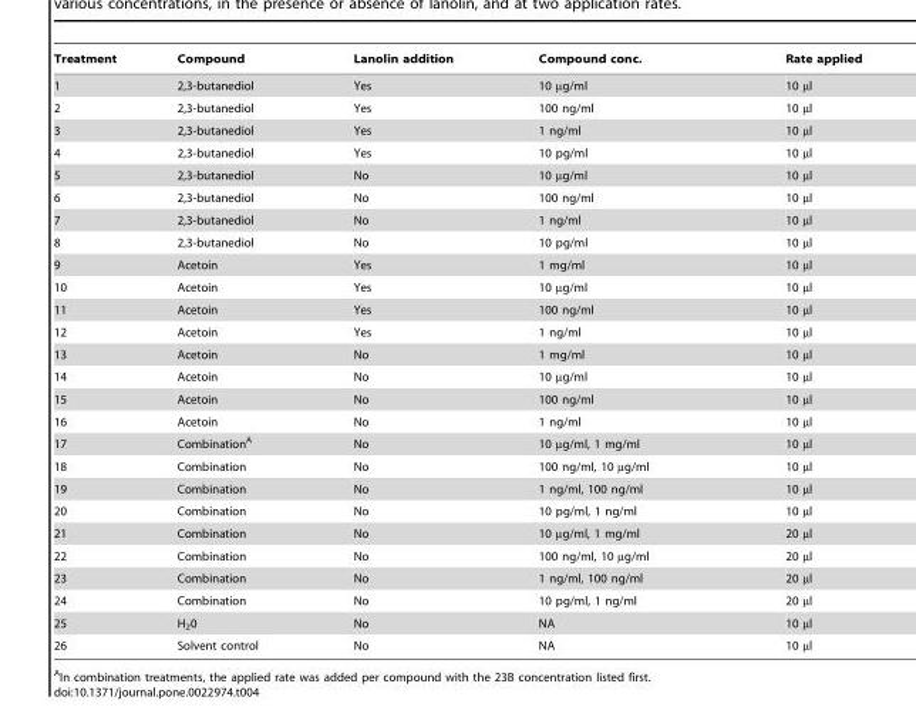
<table><thead><tr><td>Treatment</td><td>Compound</td><td>Lanolin addition</td><td>Compound conc.</td><td>Rate applied</td></tr></thead><tbody><tr><td>1</td><td>2,3-butanediol</td><td>Yes</td><td>10 µg/ml</td><td>10 µl</td></tr><tr><td>2</td><td>2,3-butanediol</td><td>Yes</td><td>100 ng/ml</td><td>10 µl</td></tr><tr><td>3</td><td>2,3-butanediol</td><td>Yes</td><td>1 ng/ml</td><td>10 µl</td></tr><tr><td>4</td><td>2,3-butanediol</td><td>Yes</td><td>10 pg/ml</td><td>10 µl</td></tr><tr><td>5</td><td>2,3-butanediol</td><td>No</td><td>10 µg/ml</td><td>10 µl</td></tr><tr><td>6</td><td>2,3-butanediol</td><td>No</td><td>100 ng/ml</td><td>10 µl</td></tr><tr><td>7</td><td>2,3-butanediol</td><td>No</td><td>1 ng/ml</td><td>10 µl</td></tr><tr><td>8</td><td>2,3-butanediol</td><td>No</td><td>10 pg/ml</td><td>10 µl</td></tr><tr><td>9</td><td>Acetoin</td><td>Yes</td><td>1 mg/ml</td><td>10 µl</td></tr><tr><td>10</td><td>Acetoin</td><td>Yes</td><td>10 µg/ml</td><td>10 µl</td></tr><tr><td>11</td><td>Acetoin</td><td>Yes</td><td>100 ng/ml</td><td>10 µl</td></tr><tr><td>12</td><td>Acetoin</td><td>Yes</td><td>1 ng/ml</td><td>10 µl</td></tr><tr><td>13</td><td>Acetoin</td><td>No</td><td>1 mg/ml</td><td>10 µl</td></tr><tr><td>14</td><td>Acetoin</td><td>No</td><td>10 µg/ml</td><td>10 µl</td></tr><tr><td>15</td><td>Acetoin</td><td>No</td><td>100 ng/ml</td><td>10 µl</td></tr><tr><td>16</td><td>Acetoin</td><td>No</td><td>1 ng/ml</td><td>10 µl</td></tr><tr><td>17</td><td>Combination<sup>A</sup></td><td>No</td><td>10 µg/ml, 1 mg/ml</td><td>10 µl</td></tr><tr><td>18</td><td>Combination</td><td>No</td><td>100 ng/ml, 10 µg/ml</td><td>10 µl</td></tr><tr><td>19</td><td>Combination</td><td>No</td><td>1 ng/ml, 100 ng/ml</td><td>10 µl</td></tr><tr><td>20</td><td>Combination</td><td>No</td><td>10 pg/ml, 1 ng/ml</td><td>10 µl</td></tr><tr><td>21</td><td>Combination</td><td>No</td><td>10 µg/ml, 1 mg/ml</td><td>20 µl</td></tr><tr><td>22</td><td>Combination</td><td>No</td><td>100 ng/ml, 10 µg/ml</td><td>20 µl</td></tr><tr><td>23</td><td>Combination</td><td>No</td><td>1 ng/ml, 100 ng/ml</td><td>20 µl</td></tr><tr><td>24</td><td>Combination</td><td>No</td><td>10 pg/ml, 1 ng/ml</td><td>20 µl</td></tr><tr><td>25</td><td>H<sub>2</sub>0</td><td>No</td><td>NA</td><td>10 µl</td></tr><tr><td>26</td><td>Solvent control</td><td>No</td><td>NA</td><td>10 µl</td></tr></tbody></table>